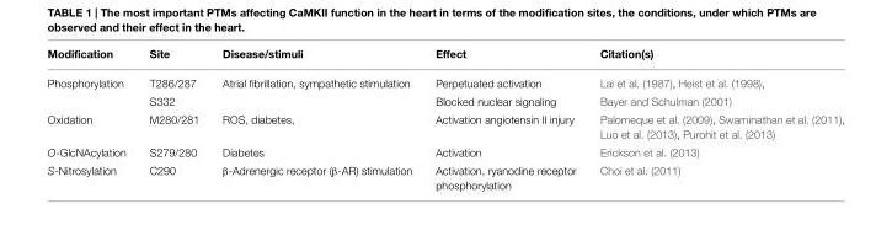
<table><thead><tr><td>Modification</td><td>Site</td><td>Disease/stimuli</td><td>Effect</td><td>Citation(s)</td></tr></thead><tbody><tr><td>Phosphorylation</td><td>T286/287 S332</td><td>Atrial fibrillation, sympathetic stimulation</td><td>Perpetuated activation Blocked nuclear signaling</td><td>Lai et al. (1987), Heist et al. (1998), Bayer and Schulman (2001)</td></tr><tr><td>Oxidation</td><td>M280/281</td><td>ROS, diabetes,</td><td>Activation angiotensin II injury</td><td>Palomeque et al. (2009), Swaminathan et al. (2011), Luo et al. (2013), Purohit et al. (2013)</td></tr><tr><td>O-GlcNAcylation</td><td>S279/280</td><td>Diabetes</td><td>Activation</td><td>Erickson et al. (2013)</td></tr><tr><td>S-Nitrosylation</td><td>C290</td><td>β-Adrenergic receptor (β-AR) stimulation</td><td>Activation, ryanodine receptor</td><td>Choi et al. (2011)</td></tr></tbody></table>